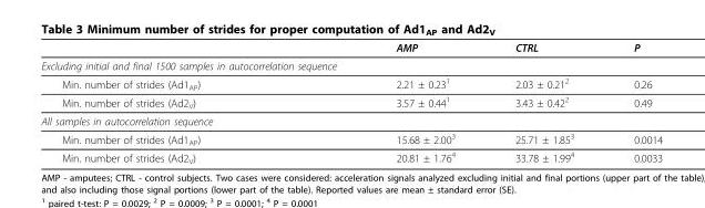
<table><thead><tr><td></td><td>AMP</td><td>CTRL</td><td>P</td></tr></thead><tbody><tr><td colspan="4">Excluding initial and final 1500 samples in autocorrelation sequence</td></tr><tr><td>Min. number of strides (Ad1<sub>AP</sub>)</td><td>2.21 ± 0.23<sup>1</sup></td><td>2.03 ± 0.21<sup>2</sup></td><td>0.26</td></tr><tr><td>Min. number of strides (Ad2<sub>V</sub>)</td><td>3.57 ± 0.44<sup>1</sup></td><td>3.43 ± 0.42<sup>2</sup></td><td>0.49</td></tr><tr><td colspan="4">All samples in autocorrelation sequence</td></tr><tr><td>Min. number of strides (Ad1<sub>AP</sub>)</td><td>15.68 ± 2.00<sup>3</sup></td><td>25.71 ± 1.85<sup>3</sup></td><td>0.0014</td></tr><tr><td>Min. number of strides (Ad2<sub>V</sub>)</td><td>20.81 ± 1.76<sup>4</sup></td><td>33.78 ± 1.99<sup>4</sup></td><td>0.0033</td></tr></tbody></table>